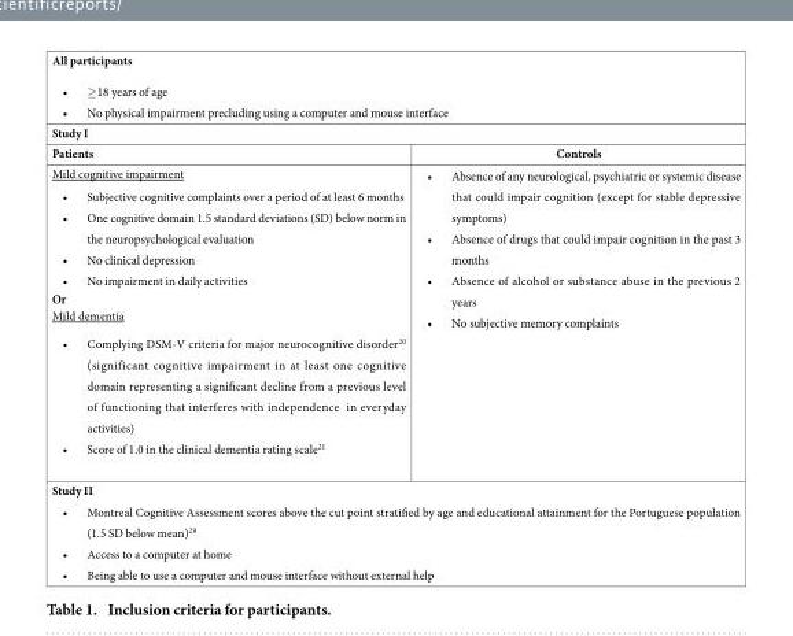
<table><tbody><tr><td colspan="2">All participants • ≥ 18 years of age • No physical impairment precluding using a computer and mouse interface</td></tr><tr><td colspan="2">Study I</td></tr><tr><td>Patients</td><td>Controls</td></tr><tr><td>Mild cognitive impairment • Subjective cognitive complaints over a period of at least 6 months • One cognitive domain 1.5 standard deviations (SD) below norm in the neuropsychological evaluation • No clinical depression • No impairment in daily activities Or Mild dementia • Complying DSM-V criteria for major neurocognitive disorder<sup>20</sup> (significant cognitive impairment in at least one cognitive domain representing a significant decline from a previous level of functioning that interferes with independence in everyday activities) • Score of 1.0 in the clinical dementia rating scale<sup>21</sup></td><td>• Absence of any neurological, psychiatric or systemic disease that could impair cognition (except for stable depressive symptoms) • Absence of drugs that could impair cognition in the past 3 months • Absence of alcohol or substance abuse in the previous 2 years • No subjective memory complaints</td></tr><tr><td colspan="2">Study II • Montreal Cognitive Assessment scores above the cut point stratified by age and educational attainment for the Portuguese population (1.5 SD below mean)<sup>29</sup> • Access to a computer at home • Being able to use a computer and mouse interface without external help</td></tr></tbody></table>